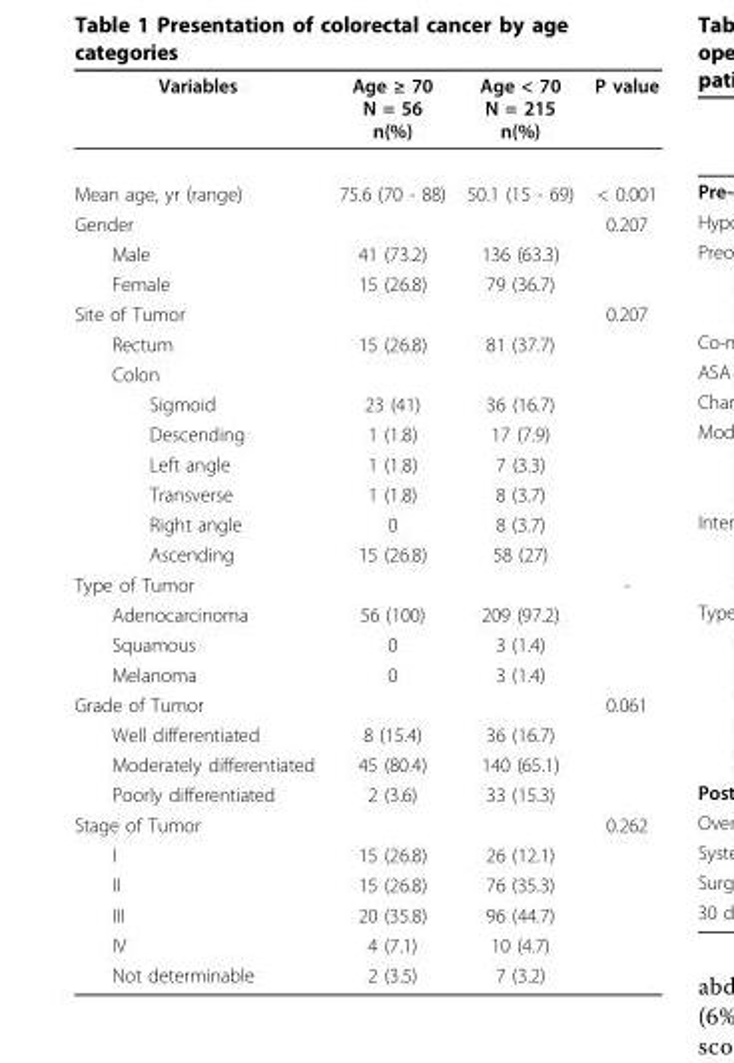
<table><thead><tr><td>Variables</td><td>Age ≥ 70 N = 56 n(%)</td><td>Age &lt; 70 N = 215 n(%)</td><td>P value</td></tr></thead><tbody><tr><td>Mean age, yr (range)</td><td>75.6 (70 - 88)</td><td>50.1 (15 - 69)</td><td>&lt; 0.001</td></tr><tr><td>Gender</td><td></td><td></td><td>0.207</td></tr><tr><td>Male</td><td>41 (73.2)</td><td>136 (63.3)</td><td></td></tr><tr><td>Female</td><td>15 (26.8)</td><td>79 (36.7)</td><td></td></tr><tr><td>Site of Tumor</td><td></td><td></td><td>0.207</td></tr><tr><td>Rectum</td><td>15 (26.8)</td><td>81 (37.7)</td><td></td></tr><tr><td colspan="4">Colon</td></tr><tr><td>Sigmoid</td><td>23 (41)</td><td>36 (16.7)</td><td></td></tr><tr><td>Descending</td><td>1 (1.8)</td><td>17 (7.9)</td><td></td></tr><tr><td>Left angle</td><td>1 (1.8)</td><td>7 (3.3)</td><td></td></tr><tr><td>Transverse</td><td>1 (1.8)</td><td>8 (3.7)</td><td></td></tr><tr><td>Right angle</td><td>0</td><td>8 (3.7)</td><td></td></tr><tr><td>Ascending</td><td>15 (26.8)</td><td>58 (27)</td><td></td></tr><tr><td>Type of Tumor</td><td></td><td></td><td>-</td></tr><tr><td>Adenocarcinoma</td><td>56 (100)</td><td>209 (97.2)</td><td></td></tr><tr><td>Squamous</td><td>0</td><td>3 (1.4)</td><td></td></tr><tr><td>Melanoma</td><td>0</td><td>3 (1.4)</td><td></td></tr><tr><td>Grade of Tumor</td><td></td><td></td><td>0.061</td></tr><tr><td>Well differentiated</td><td>8 (15.4)</td><td>36 (16.7)</td><td></td></tr><tr><td>Moderately differentiated</td><td>45 (80.4)</td><td>140 (65.1)</td><td></td></tr><tr><td>Poorly differentiated</td><td>2 (3.6)</td><td>33 (15.3)</td><td></td></tr><tr><td>Stage of Tumor</td><td></td><td></td><td>0.262</td></tr><tr><td>I</td><td>15 (26.8)</td><td>26 (12.1)</td><td></td></tr><tr><td>II</td><td>15 (26.8)</td><td>76 (35.3)</td><td></td></tr><tr><td>III</td><td>20 (35.8)</td><td>96 (44.7)</td><td></td></tr><tr><td>IV</td><td>4 (7.1)</td><td>10 (4.7)</td><td></td></tr><tr><td>Not determinable</td><td>2 (3.5)</td><td>7 (3.2)</td><td></td></tr></tbody></table>